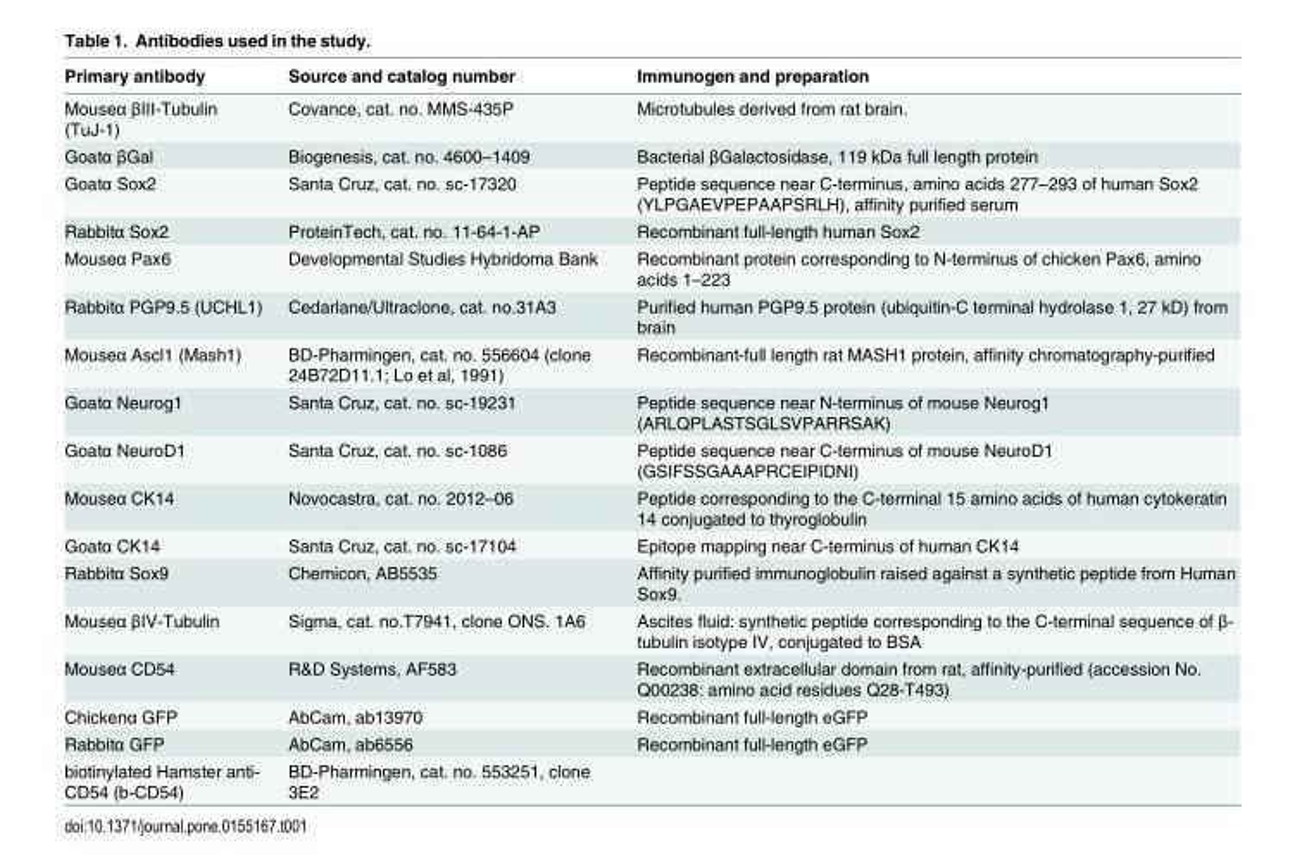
<table><thead><tr><td>Primary antibody</td><td>Source and catalog number</td><td>Immunogen and preparation</td></tr></thead><tbody><tr><td>Mouseα βIII-Tubulin (TuJ-1)</td><td>Covance, cat. no. MMS-435P</td><td>Microtubules derived from rat brain.</td></tr><tr><td>Goatα βGal</td><td>Biogenesis, cat. no. 4600–1409</td><td>Bacterial βGalactosidase, 119 kDa full length protein</td></tr><tr><td>Goatα Sox2</td><td>Santa Cruz, cat. no. sc-17320</td><td>Peptide sequence near C-terminus, amino acids 277–293 of human Sox2 (YLPGAEVPEPAAPSRLH), affinity purified serum</td></tr><tr><td>Rabbitα Sox2</td><td>ProteinTech, cat. no. 11-64-1-AP</td><td>Recombinant full-length human Sox2</td></tr><tr><td>Mouseα Pax6</td><td>Developmental Studies Hybridoma Bank</td><td>Recombinant protein corresponding to N-terminus of chicken Pax6, amino acids 1–223</td></tr><tr><td>Rabbitα PGP9.5 (UCHL1)</td><td>Cedarlane/Ultraclone, cat. no.31A3</td><td>Purified human PGP9.5 protein (ubiquitin-C terminal hydrolase 1, 27 kD) from brain</td></tr><tr><td>Mouseα Ascl1 (Mash1)</td><td>BD-Pharmingen, cat. no. 556604 (clone 24B72D11.1; Lo et al, 1991)</td><td>Recombinant-full length rat MASH1 protein, affinity chromatography-purified</td></tr><tr><td>Goatα Neurog1</td><td>Santa Cruz, cat. no. sc-19231</td><td>Peptide sequence near N-terminus of mouse Neurog1 (ARLQPLASTSGLSVPARRSAK)</td></tr><tr><td>Goatα NeuroD1</td><td>Santa Cruz, cat. no. sc-1086</td><td>Peptide sequence near C-terminus of mouse NeuroD1 (GSIFSSGAAAPRCEIPIDNI)</td></tr><tr><td>Mouseα CK14</td><td>Novocastra, cat. no. 2012–06</td><td>Peptide corresponding to the C-terminal 15 amino acids of human cytokeratin 14 conjugated to thyroglobulin</td></tr><tr><td>Goatα CK14</td><td>Santa Cruz, cat. no. sc-17104</td><td>Epitope mapping near C-terminus of human CK14</td></tr><tr><td>Rabbitα Sox9</td><td>Chemicon, AB5535</td><td>Affinity purified immunoglobulin raised against a synthetic peptide from Human Sox9.</td></tr><tr><td>Mouseα βIV-Tubulin</td><td>Sigma, cat. no.T7941, clone ONS. 1A6</td><td>Ascites fluid: synthetic peptide corresponding to the C-terminal sequence of β- tubulin isotype IV, conjugated to BSA</td></tr><tr><td>Mouseα CD54</td><td>R&amp;D Systems, AF583</td><td>Recombinant extracellular domain from rat, affinity-purified (accession No. Q00238: amino acid residues Q28-T493)</td></tr><tr><td>Chickenα GFP</td><td>AbCam, ab13970</td><td>Recombinant full-length eGFP</td></tr><tr><td>Rabbitα GFP</td><td>AbCam, ab6556</td><td>Recombinant full-length eGFP</td></tr><tr><td>biotinylated Hamster anti- CD54 (b-CD54)</td><td>BD-Pharmingen, cat. no. 553251, clone 3E2</td><td></td></tr></tbody></table>